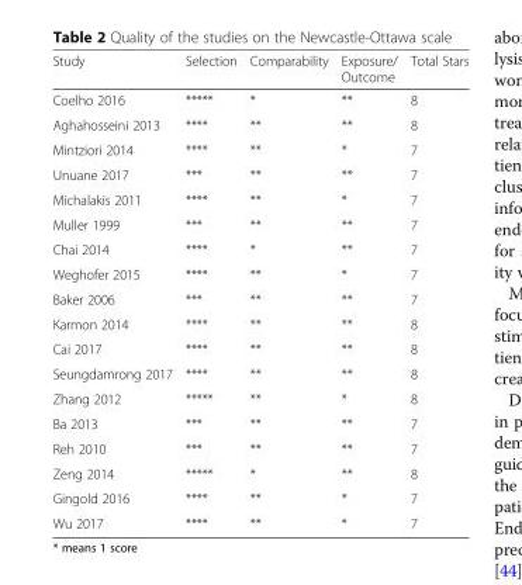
<table><thead><tr><td>Study</td><td>Selection</td><td>Comparability</td><td>Exposure/ Outcome</td><td>Total Stars</td></tr></thead><tbody><tr><td>Coelho 2016</td><td>*****</td><td>*</td><td>**</td><td>8</td></tr><tr><td>Aghahosseini 2013</td><td>****</td><td>**</td><td>**</td><td>8</td></tr><tr><td>Mintziori 2014</td><td>****</td><td>**</td><td>*</td><td>7</td></tr><tr><td>Unuane 2017</td><td>***</td><td>**</td><td>**</td><td>7</td></tr><tr><td>Michalakis 2011</td><td>****</td><td>**</td><td>*</td><td>7</td></tr><tr><td>Muller 1999</td><td>***</td><td>**</td><td>**</td><td>7</td></tr><tr><td>Chai 2014</td><td>****</td><td>*</td><td>**</td><td>7</td></tr><tr><td>Weghofer 2015</td><td>****</td><td>**</td><td>*</td><td>7</td></tr><tr><td>Baker 2006</td><td>***</td><td>**</td><td>**</td><td>7</td></tr><tr><td>Karmon 2014</td><td>****</td><td>**</td><td>**</td><td>8</td></tr><tr><td>Cai 2017</td><td>****</td><td>**</td><td>**</td><td>8</td></tr><tr><td>Seungdamrong 2017</td><td>****</td><td>**</td><td>**</td><td>8</td></tr><tr><td>Zhang 2012</td><td>*****</td><td>**</td><td>*</td><td>8</td></tr><tr><td>Ba 2013</td><td>***</td><td>**</td><td>**</td><td>7</td></tr><tr><td>Reh 2010</td><td>***</td><td>**</td><td>**</td><td>7</td></tr><tr><td>Zeng 2014</td><td>*****</td><td>*</td><td>**</td><td>8</td></tr><tr><td>Gingold 2016</td><td>****</td><td>**</td><td>*</td><td>7</td></tr><tr><td>Wu 2017</td><td>****</td><td>**</td><td>*</td><td>7</td></tr></tbody></table>